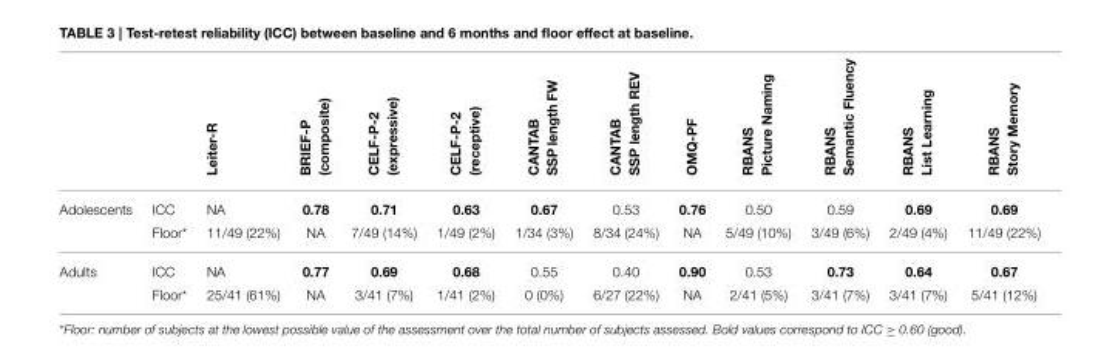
<table><thead><tr><td></td><td></td><td>Leiter-R</td><td>BRIEF-P (composite)</td><td>CELF-P-2 (expressive)</td><td>CELF-P-2 (receptive)</td><td>CANTAB SSP length FW</td><td>CANTAB SSP length REV</td><td>OMQ-PF</td><td>RBANS Picture Naming</td><td>RBANS Semantic Fluency</td><td>RBANS List Learning</td><td>RBANS Story Memory</td></tr></thead><tbody><tr><td rowspan="2">Adolescents</td><td>ICC</td><td>NA</td><td>0.78</td><td>0.71</td><td>0.63</td><td>0.67</td><td>0.53</td><td>0.76</td><td>0.50</td><td>0.59</td><td>0.69</td><td>0.69</td></tr><tr><td>Floor*</td><td>11/49 (22%)</td><td>NA</td><td>7/49 (14%)</td><td>1/49 (2%)</td><td>1/34 (3%)</td><td>8/34 (24%)</td><td>NA</td><td>5/49 (10%)</td><td>3/49 (6%)</td><td>2/49 (4%)</td><td>11/49 (22%)</td></tr><tr><td rowspan="2">Adults</td><td>ICC</td><td>NA</td><td>0.77</td><td>0.69</td><td>0.68</td><td>0.55</td><td>0.40</td><td>0.90</td><td>0.53</td><td>0.73</td><td>0.64</td><td>0.67</td></tr><tr><td>Floor*</td><td>25/41 (61%)</td><td>NA</td><td>3/41 (7%)</td><td>1/41 (2%)</td><td>0 (0%)</td><td>6/27 (22%)</td><td>NA</td><td>2/41 (5%)</td><td>3/41 (7%)</td><td>3/41 (7%)</td><td>5/41 (12%)</td></tr></tbody></table>